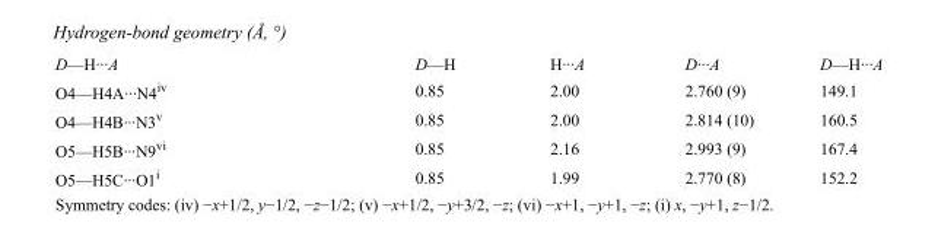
<table><tbody><tr><td>D—H···A</td><td>D—H</td><td>H···A</td><td>D···A</td><td>D—H···A</td></tr><tr><td>O4—H4A···N4<sup>iv</sup></td><td>0.85</td><td>2.00</td><td>2.760 (9)</td><td>149.1</td></tr><tr><td>O4—H4B···N3<sup>v</sup></td><td>0.85</td><td>2.00</td><td>2.814 (10)</td><td>160.5</td></tr><tr><td>O5—H5B···N9<sup>vi</sup></td><td>0.85</td><td>2.16</td><td>2.993 (9)</td><td>167.4</td></tr><tr><td>O5—H5C···O1<sup>i</sup></td><td>0.85</td><td>1.99</td><td>2.770 (8)</td><td>152.2</td></tr></tbody></table>